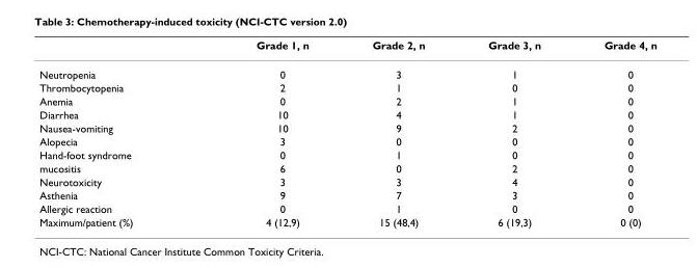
<table><thead><tr><td></td><td>Grade 1, n</td><td>Grade 2, n</td><td>Grade 3, n</td><td>Grade 4, n</td></tr></thead><tbody><tr><td>Neutropenia</td><td>0</td><td>3</td><td>1</td><td>0</td></tr><tr><td>Thrombocytopenia</td><td>2</td><td>1</td><td>0</td><td>0</td></tr><tr><td>Anemia</td><td>0</td><td>2</td><td>1</td><td>0</td></tr><tr><td>Diarrhea</td><td>10</td><td>4</td><td>1</td><td>0</td></tr><tr><td>Nausea-vomiting</td><td>10</td><td>9</td><td>2</td><td>0</td></tr><tr><td>Alopecia</td><td>3</td><td>0</td><td>0</td><td>0</td></tr><tr><td>Hand-foot syndrome</td><td>0</td><td>1</td><td>0</td><td>0</td></tr><tr><td>mucositis</td><td>6</td><td>0</td><td>2</td><td>0</td></tr><tr><td>Neurotoxicity</td><td>3</td><td>3</td><td>4</td><td>0</td></tr><tr><td>Asthenia</td><td>9</td><td>7</td><td>3</td><td>0</td></tr><tr><td>Allergic reaction</td><td>0</td><td>1</td><td>0</td><td>0</td></tr><tr><td>Maximum/patient (%)</td><td>4 (12,9)</td><td>15 (48,4)</td><td>6 (19,3)</td><td>0 (0)</td></tr></tbody></table>